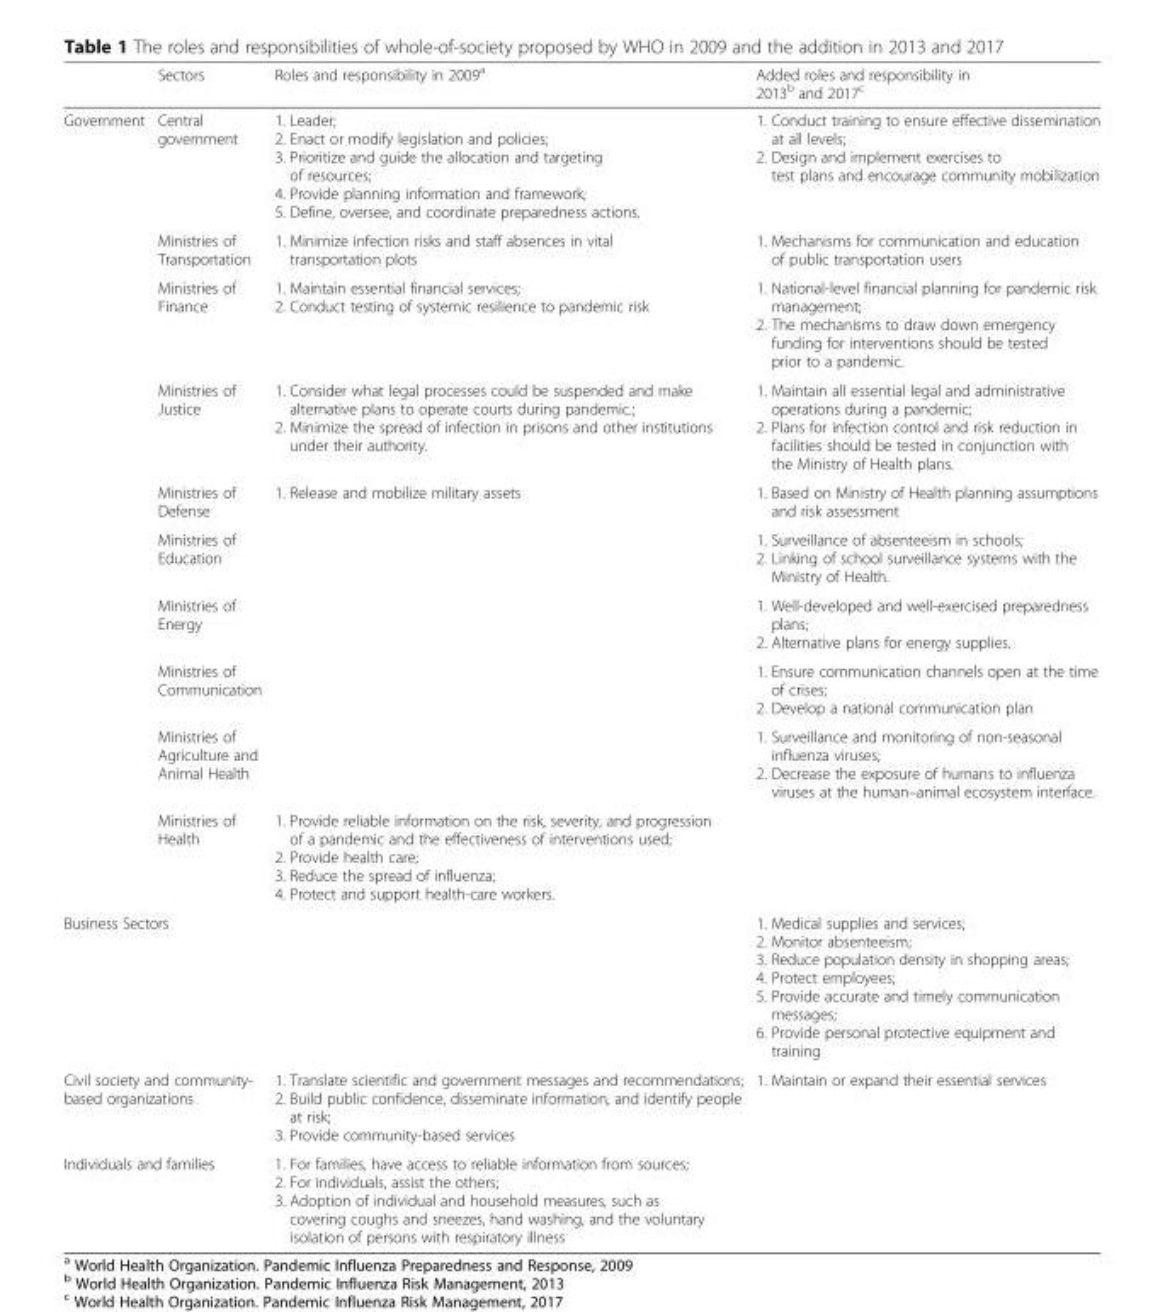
<table><thead><tr><td></td><td>Sectors</td><td>Roles and responsibility in 2009<sup>a</sup></td><td>Added roles and responsibility in 2013<sup>b</sup> and 2017<sup>c</sup></td></tr></thead><tbody><tr><td rowspan="10">Government</td><td>Central government</td><td>1. Leader; 2. Enact or modify legislation and policies; 3. Prioritize and guide the allocation and targeting of resources; 4. Provide planning information and framework; 5. Define, oversee, and coordinate preparedness actions.</td><td>1. Conduct training to ensure effective dissemination at all levels; 2. Design and implement exercises to test plans and encourage community mobilization</td></tr><tr><td>Ministries of Transportation</td><td>1. Minimize infection risks and staff absences in vital transportation plots</td><td>1. Mechanisms for communication and education of public transportation users</td></tr><tr><td>Ministries of Finance</td><td>1. Maintain essential financial services; 2. Conduct testing of systemic resilience to pandemic risk</td><td>1. National-level financial planning for pandemic risk management; 2. The mechanisms to draw down emergency funding for interventions should be tested prior to a pandemic.</td></tr><tr><td>Ministries of Justice</td><td>1. Consider what legal processes could be suspended and make alternative plans to operate courts during pandemic.; 2. Minimize the spread of infection in prisons and other institutions under their authority.</td><td>1. Maintain all essential legal and administrative operations during a pandemic; 2. Plans for infection control and risk reduction in facilities should be tested in conjunction with the Ministry of Health plans.</td></tr><tr><td>Ministries of Defense</td><td>1. Release and mobilize military assets</td><td>1. Based on Ministry of Health planning assumptions and risk assessment</td></tr><tr><td>Ministries of Education</td><td></td><td>1. Surveillance of absenteeism in schools; 2. Linking of school surveillance systems with the Ministry of Health.</td></tr><tr><td>Ministries of Energy</td><td></td><td>1. Well-developed and well-exercised preparedness plans; 2. Alternative plans for energy supplies.</td></tr><tr><td>Ministries of Communication</td><td></td><td>1. Ensure communication channels open at the time of crises; 2. Develop a national communication plan</td></tr><tr><td>Ministries of Agriculture and Animal Health</td><td></td><td>1. Surveillance and monitoring of non-seasonal influenza viruses; 2. Decrease the exposure of humans to influenza viruses at the human–animal ecosystem interface.</td></tr><tr><td>Ministries of Health</td><td>1. Provide reliable information on the risk, severity, and progression of a pandemic and the effectiveness of interventions used; 2. Provide health care; 3. Reduce the spread of influenza; 4. Protect and support health-care workers.</td><td></td></tr><tr><td colspan="2">Business Sectors</td><td></td><td>1. Medical supplies and services; 2. Monitor absenteeism; 3. Reduce population density in shopping areas; 4. Protect employees; 5. Provide accurate and timely communication messages; 6. Provide personal protective equipment and training</td></tr><tr><td colspan="2">Civil society and community- based organizations</td><td>1. Translate scientific and government messages and recommendations; 2. Build public confidence, disseminate information, and identify people at risk; 3. Provide community-based services</td><td>1. Maintain or expand their essential services</td></tr><tr><td colspan="2">Individuals and families</td><td>1. For families, have access to reliable information from sources; 2. For individuals, assist the others; 3. Adoption of individual and household measures, such as covering coughs and sneezes, hand washing, and the voluntary isolation of persons with respiratory illness</td><td></td></tr></tbody></table>